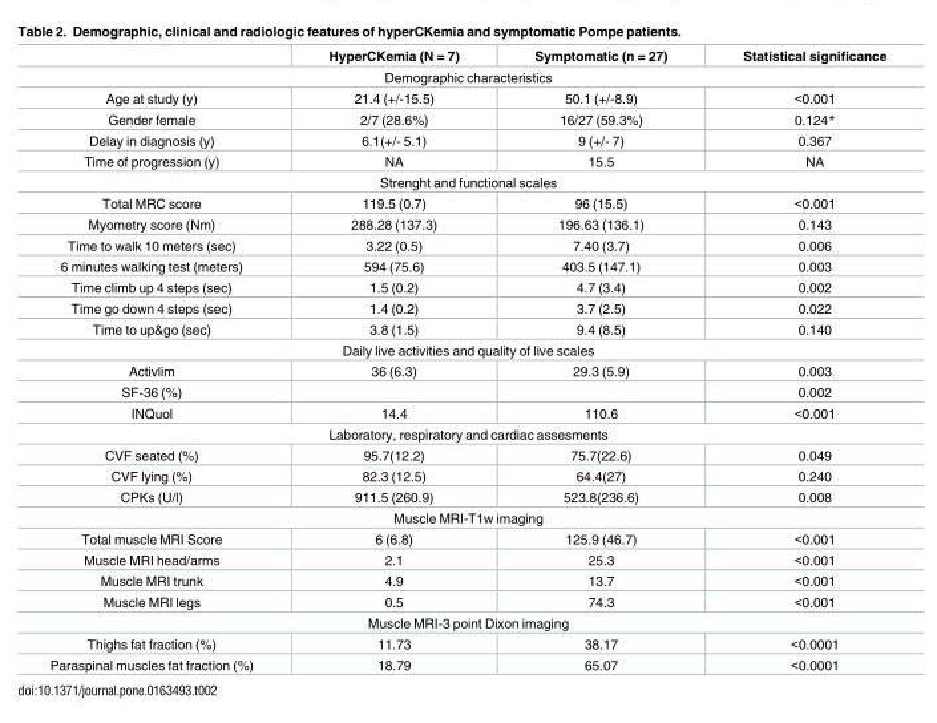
<table><thead><tr><td></td><td>HyperCKemia (N = 7)</td><td>Symptomatic (n = 27)</td><td>Statistical significance</td></tr></thead><tbody><tr><td colspan="4">Demographic characteristics</td></tr><tr><td>Age at study (y)</td><td>21.4 (+/-15.5)</td><td>50.1 (+/-8.9)</td><td>&lt;0.001</td></tr><tr><td>Gender female</td><td>2/7 (28.6%)</td><td>16/27 (59.3%)</td><td>0.124*</td></tr><tr><td>Delay in diagnosis (y)</td><td>6.1(+/- 5.1)</td><td>9 (+/- 7)</td><td>0.367</td></tr><tr><td>Time of progression (y)</td><td>NA</td><td>15.5</td><td>NA</td></tr><tr><td colspan="4">Strenght and functional scales</td></tr><tr><td>Total MRC score</td><td>119.5 (0.7)</td><td>96 (15.5)</td><td>&lt;0.001</td></tr><tr><td>Myometry score (Nm)</td><td>288.28 (137.3)</td><td>196.63 (136.1)</td><td>0.143</td></tr><tr><td>Time to walk 10 meters (sec)</td><td>3.22 (0.5)</td><td>7.40 (3.7)</td><td>0.006</td></tr><tr><td>6 minutes walking test (meters)</td><td>594 (75.6)</td><td>403.5 (147.1)</td><td>0.003</td></tr><tr><td>Time climb up 4 steps (sec)</td><td>1.5 (0.2)</td><td>4.7 (3.4)</td><td>0.002</td></tr><tr><td>Time go down 4 steps (sec)</td><td>1.4 (0.2)</td><td>3.7 (2.5)</td><td>0.022</td></tr><tr><td>Time to up&amp;go (sec)</td><td>3.8 (1.5)</td><td>9.4 (8.5)</td><td>0.140</td></tr><tr><td colspan="4">Daily live activities and quality of live scales</td></tr><tr><td>Activlim</td><td>36 (6.3)</td><td>29.3 (5.9)</td><td>0.003</td></tr><tr><td>SF-36 (%)</td><td></td><td></td><td>0.002</td></tr><tr><td>INQuol</td><td>14.4</td><td>110.6</td><td>&lt;0.001</td></tr><tr><td colspan="4">Laboratory, respiratory and cardiac assesments</td></tr><tr><td>CVF seated (%)</td><td>95.7(12.2)</td><td>75.7(22.6)</td><td>0.049</td></tr><tr><td>CVF lying (%)</td><td>82.3 (12.5)</td><td>64.4(27)</td><td>0.240</td></tr><tr><td>CPKs (U/l)</td><td>911.5 (260.9)</td><td>523.8(236.6)</td><td>0.008</td></tr><tr><td colspan="4">Muscle MRI-T1w imaging</td></tr><tr><td>Total muscle MRI Score</td><td>6 (6.8)</td><td>125.9 (46.7)</td><td>&lt;0.001</td></tr><tr><td>Muscle MRI head/arms</td><td>2.1</td><td>25.3</td><td>&lt;0.001</td></tr><tr><td>Muscle MRI trunk</td><td>4.9</td><td>13.7</td><td>&lt;0.001</td></tr><tr><td>Muscle MRI legs</td><td>0.5</td><td>74.3</td><td>&lt;0.001</td></tr><tr><td colspan="4">Muscle MRI-3 point Dixon imaging</td></tr><tr><td>Thighs fat fraction (%)</td><td>11.73</td><td>38.17</td><td>&lt;0.0001</td></tr><tr><td>Paraspinal muscles fat fraction (%)</td><td>18.79</td><td>65.07</td><td>&lt;0.0001</td></tr></tbody></table>